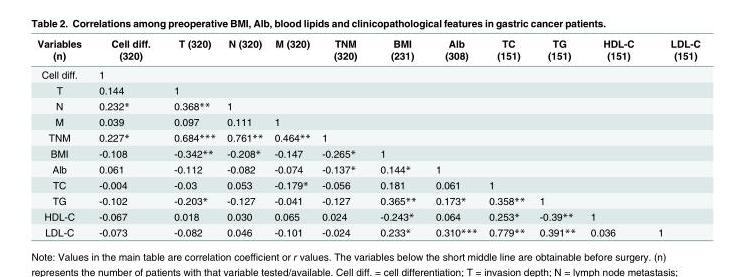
<table><thead><tr><td>Variables (n)</td><td>Cell diff. (320)</td><td>T (320)</td><td>N (320)</td><td>M (320)</td><td>TNM (320)</td><td>BMI (231)</td><td>Alb (308)</td><td>TC (151)</td><td>TG (151)</td><td>HDL-C (151)</td><td>LDL-C (151)</td></tr></thead><tbody><tr><td>Cell diff.</td><td>1</td><td></td><td></td><td></td><td></td><td></td><td></td><td></td><td></td><td></td><td></td></tr><tr><td>T</td><td>0.144</td><td>1</td><td></td><td></td><td></td><td></td><td></td><td></td><td></td><td></td><td></td></tr><tr><td>N</td><td>0.232*</td><td>0.368**</td><td>1</td><td></td><td></td><td></td><td></td><td></td><td></td><td></td><td></td></tr><tr><td>M</td><td>0.039</td><td>0.097</td><td>0.111</td><td>1</td><td></td><td></td><td></td><td></td><td></td><td></td><td></td></tr><tr><td>TNM</td><td>0.227*</td><td>0.684***</td><td>0.761**</td><td>0.464**</td><td>1</td><td></td><td></td><td></td><td></td><td></td><td></td></tr><tr><td>BMI</td><td>-0.108</td><td>-0.342**</td><td>-0.208*</td><td>-0.147</td><td>-0.265*</td><td>1</td><td></td><td></td><td></td><td></td><td></td></tr><tr><td>Alb</td><td>0.061</td><td>-0.112</td><td>-0.082</td><td>-0.074</td><td>-0.137*</td><td>0.144*</td><td>1</td><td></td><td></td><td></td><td></td></tr><tr><td>TC</td><td>-0.004</td><td>-0.03</td><td>0.053</td><td>-0.179*</td><td>-0.056</td><td>0.181</td><td>0.061</td><td>1</td><td></td><td></td><td></td></tr><tr><td>TG</td><td>-0.102</td><td>-0.203*</td><td>-0.127</td><td>-0.041</td><td>-0.127</td><td>0.365**</td><td>0.173*</td><td>0.358**</td><td>1</td><td></td><td></td></tr><tr><td>HDL-C</td><td>-0.067</td><td>0.018</td><td>0.030</td><td>0.065</td><td>0.024</td><td>-0.243*</td><td>0.064</td><td>0.253*</td><td>-0.39**</td><td>1</td><td></td></tr><tr><td>LDL-C</td><td>-0.073</td><td>-0.082</td><td>0.046</td><td>-0.101</td><td>-0.024</td><td>0.233*</td><td>0.310***</td><td>0.779**</td><td>0.391**</td><td>0.036</td><td>1</td></tr></tbody></table>